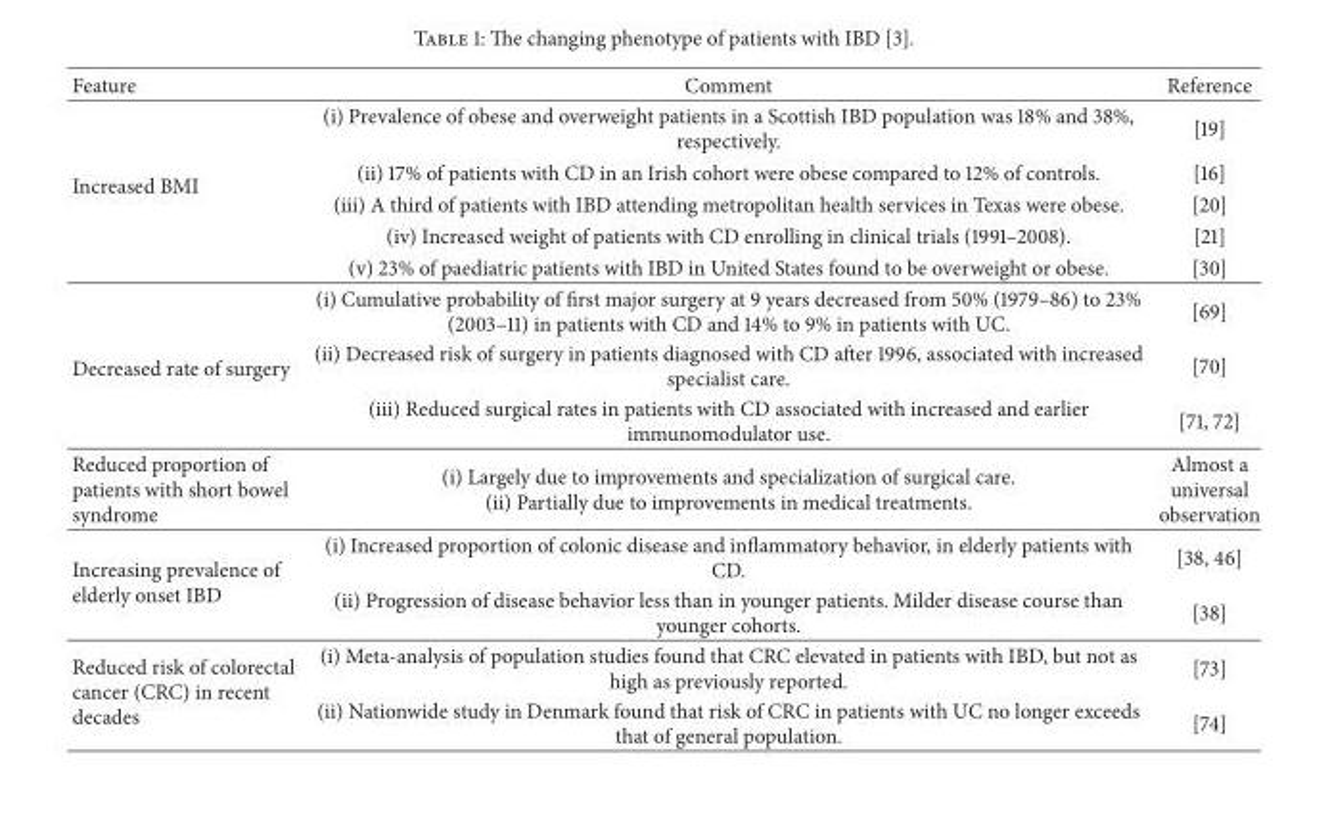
<table><thead><tr><td>Feature</td><td>Comment</td><td>Reference</td></tr></thead><tbody><tr><td rowspan="5">Increased BMI</td><td>(i) Prevalence of obese and overweight patients in a Scottish IBD population was 18% and 38%, respectively.</td><td>[19]</td></tr><tr><td>(ii) 17% of patients with CD in an Irish cohort were obese compared to 12% of controls.</td><td>[16]</td></tr><tr><td>(iii) A third of patients with IBD attending metropolitan health services in Texas were obese.</td><td>[20]</td></tr><tr><td>(iv) Increased weight of patients with CD enrolling in clinical trials (1991–2008).</td><td>[21]</td></tr><tr><td>(v) 23% of paediatric patients with IBD in United States found to be overweight or obese.</td><td>[30]</td></tr><tr><td rowspan="3">Decreased rate of surgery</td><td>(i) Cumulative probability of first major surgery at 9 years decreased from 50% (1979–86) to 23% (2003–11) in patients with CD and 14% to 9% in patients with UC.</td><td>[69]</td></tr><tr><td>(ii) Decreased risk of surgery in patients diagnosed with CD after 1996, associated with increased specialist care.</td><td>[70]</td></tr><tr><td>(iii) Reduced surgical rates in patients with CD associated with increased and earlier immunomodulator use.</td><td>[71, 72]</td></tr><tr><td>Reduced proportion of patients with short bowel syndrome</td><td>(i) Largely due to improvements and specialization of surgical care. (ii) Partially due to improvements in medical treatments.</td><td>Almost a universal observation</td></tr><tr><td rowspan="2">Increasing prevalence of elderly onset IBD</td><td>(i) Increased proportion of colonic disease and inflammatory behavior, in elderly patients with CD.</td><td>[38, 46]</td></tr><tr><td>(ii) Progression of disease behavior less than in younger patients. Milder disease course than younger cohorts.</td><td>[38]</td></tr><tr><td rowspan="2">Reduced risk of colorectal cancer (CRC) in recent decades</td><td>(i) Meta-analysis of population studies found that CRC elevated in patients with IBD, but not as high as previously reported.</td><td>[73]</td></tr><tr><td>(ii) Nationwide study in Denmark found that risk of CRC in patients with UC no longer exceeds that of general population.</td><td>[74]</td></tr></tbody></table>